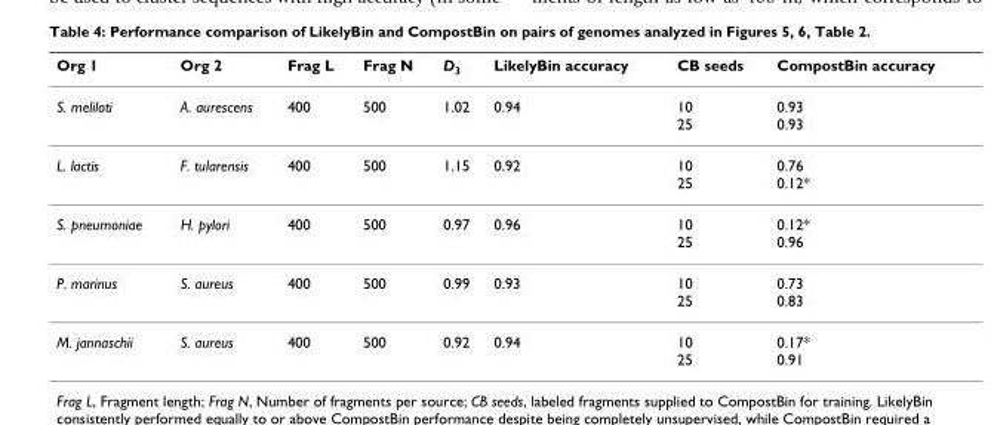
<table><thead><tr><td>Org 1</td><td>Org 2</td><td>Frag L</td><td>Frag N</td><td>D<sub>3</sub></td><td>LikelyBin accuracy</td><td>CB seeds</td><td>CompostBin accuracy</td></tr></thead><tbody><tr><td>S. meliloti</td><td>A. aurescens</td><td>400</td><td>500</td><td>1.02</td><td>0.94</td><td>10 25</td><td>0.93 0.93</td></tr><tr><td>L. lactis</td><td>F. tularensis</td><td>400</td><td>500</td><td>1.15</td><td>0.92</td><td>10 25</td><td>0.76 0.12*</td></tr><tr><td>S. pneumoniae</td><td>H. pylori</td><td>400</td><td>500</td><td>0.97</td><td>0.96</td><td>10 25</td><td>0.12* 0.96</td></tr><tr><td>P. marinus</td><td>S. aureus</td><td>400</td><td>500</td><td>0.99</td><td>0.93</td><td>10 25</td><td>0.73 0.83</td></tr><tr><td>M. jannaschii</td><td>S. aureus</td><td>400</td><td>500</td><td>0.92</td><td>0.94</td><td>10 25</td><td>0.17* 0.91</td></tr></tbody></table>